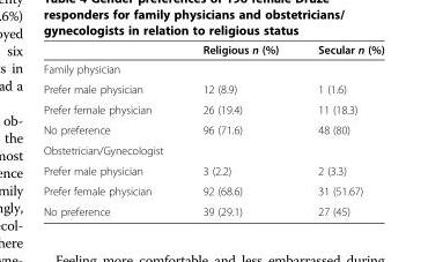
<table><thead><tr><td></td><td>Religious n (%)</td><td>Secular n (%)</td></tr></thead><tbody><tr><td colspan="3">Family physician</td></tr><tr><td>Prefer male physician</td><td>12 (8.9)</td><td>1 (1.6)</td></tr><tr><td>Prefer female physician</td><td>26 (19.4)</td><td>11 (18.3)</td></tr><tr><td>No preference</td><td>96 (71.6)</td><td>48 (80)</td></tr><tr><td colspan="3">Obstetrician/Gynecologist</td></tr><tr><td>Prefer male physician</td><td>3 (2.2)</td><td>2 (3.3)</td></tr><tr><td>Prefer female physician</td><td>92 (68.6)</td><td>31 (51.67)</td></tr><tr><td>No preference</td><td>39 (29.1)</td><td>27 (45)</td></tr></tbody></table>